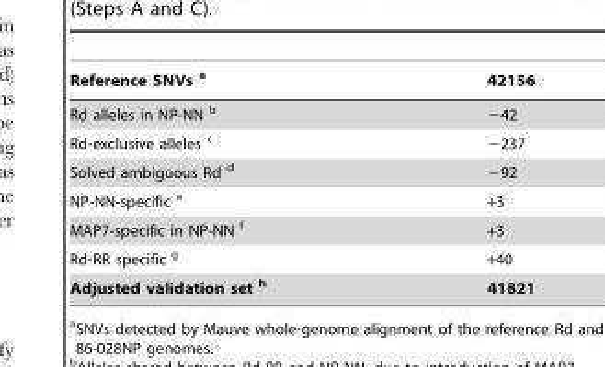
<table><thead><tr><td>Reference SNVs a</td><td>42156</td></tr></thead><tbody><tr><td>Rd alleles in NP-NN b</td><td>−42</td></tr><tr><td>Rd-exclusive alleles c</td><td>−237</td></tr><tr><td>Solved ambiguous Rd d</td><td>−92</td></tr><tr><td>NP-NN-specific e</td><td>+3</td></tr><tr><td>MAP7-specific in NP-NN f</td><td>+3</td></tr><tr><td>Rd-RR specific g</td><td>+40</td></tr><tr><td>Adjusted validation set h</td><td>41821</td></tr></tbody></table>